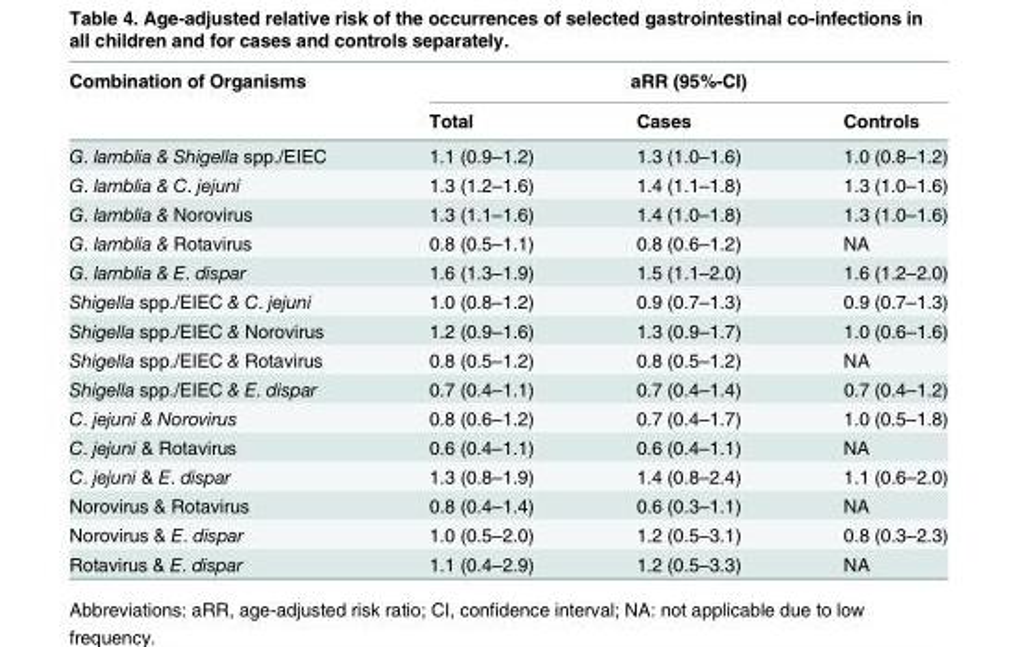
<table><thead><tr><td rowspan="2">Combination of Organisms</td><td colspan="3">aRR (95%-CI)</td></tr><tr><td>Total</td><td>Cases</td><td>Controls</td></tr></thead><tbody><tr><td>G. lamblia &amp; Shigella spp./EIEC</td><td>1.1 (0.9–1.2)</td><td>1.3 (1.0–1.6)</td><td>1.0 (0.8–1.2)</td></tr><tr><td>G. lamblia &amp; C. jejuni</td><td>1.3 (1.2–1.6)</td><td>1.4 (1.1–1.8)</td><td>1.3 (1.0–1.6)</td></tr><tr><td>G. lamblia &amp; Norovirus</td><td>1.3 (1.1–1.6)</td><td>1.4 (1.0–1.8)</td><td>1.3 (1.0–1.6)</td></tr><tr><td>G. lamblia &amp; Rotavirus</td><td>0.8 (0.5–1.1)</td><td>0.8 (0.6–1.2)</td><td>NA</td></tr><tr><td>G. lamblia &amp; E. dispar</td><td>1.6 (1.3–1.9)</td><td>1.5 (1.1–2.0)</td><td>1.6 (1.2–2.0)</td></tr><tr><td>Shigella spp./EIEC &amp; C. jejuni</td><td>1.0 (0.8–1.2)</td><td>0.9 (0.7–1.3)</td><td>0.9 (0.7–1.3)</td></tr><tr><td>Shigella spp./EIEC &amp; Norovirus</td><td>1.2 (0.9–1.6)</td><td>1.3 (0.9–1.7)</td><td>1.0 (0.6–1.6)</td></tr><tr><td>Shigella spp./EIEC &amp; Rotavirus</td><td>0.8 (0.5–1.2)</td><td>0.8 (0.5–1.2)</td><td>NA</td></tr><tr><td>Shigella spp./EIEC &amp; E. dispar</td><td>0.7 (0.4–1.1)</td><td>0.7 (0.4–1.4)</td><td>0.7 (0.4–1.2)</td></tr><tr><td>C. jejuni &amp; Norovirus</td><td>0.8 (0.6–1.2)</td><td>0.7 (0.4–1.7)</td><td>1.0 (0.5–1.8)</td></tr><tr><td>C. jejuni &amp; Rotavirus</td><td>0.6 (0.4–1.1)</td><td>0.6 (0.4–1.1)</td><td>NA</td></tr><tr><td>C. jejuni &amp; E. dispar</td><td>1.3 (0.8–1.9)</td><td>1.4 (0.8–2.4)</td><td>1.1 (0.6–2.0)</td></tr><tr><td>Norovirus &amp; Rotavirus</td><td>0.8 (0.4–1.4)</td><td>0.6 (0.3–1.1)</td><td>NA</td></tr><tr><td>Norovirus &amp; E. dispar</td><td>1.0 (0.5–2.0)</td><td>1.2 (0.5–3.1)</td><td>0.8 (0.3–2.3)</td></tr><tr><td>Rotavirus &amp; E. dispar</td><td>1.1 (0.4–2.9)</td><td>1.2 (0.5–3.3)</td><td>NA</td></tr></tbody></table>